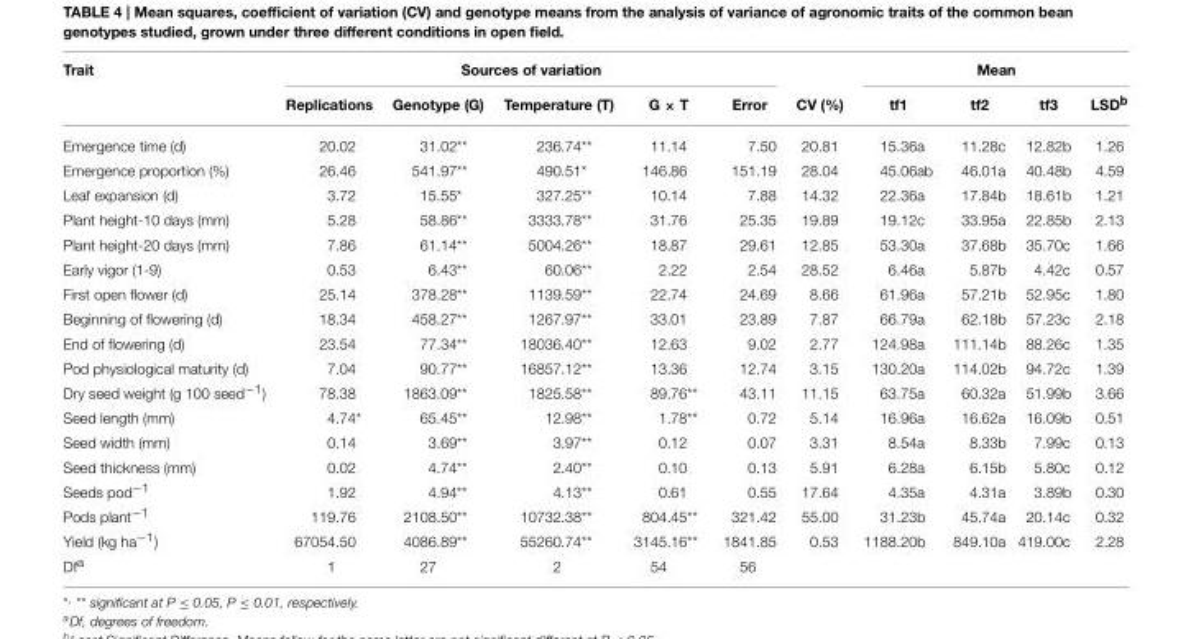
<table><thead><tr><td rowspan="2">Trait</td><td colspan="5">Sources of variation</td><td rowspan="2">CV (%)</td><td colspan="4">Mean</td></tr><tr><td>Replications</td><td>Genotype (G)</td><td>Temperature (T)</td><td>G × T</td><td>Error</td><td>tf1</td><td>tf2</td><td>tf3</td><td>LSD<sup>b</sup></td></tr></thead><tbody><tr><td>Emergence time (d)</td><td>20.02</td><td>31.02**</td><td>236.74**</td><td>11.14</td><td>7.50</td><td>20.81</td><td>15.36a</td><td>11.28c</td><td>12.82b</td><td>1.26</td></tr><tr><td>Emergence proportion (%)</td><td>26.46</td><td>541.97**</td><td>490.51*</td><td>146.86</td><td>151.19</td><td>28.04</td><td>45.06ab</td><td>46.01a</td><td>40.48b</td><td>4.59</td></tr><tr><td>Leaf expansion (d)</td><td>3.72</td><td>15.55*</td><td>327.25**</td><td>10.14</td><td>7.88</td><td>14.32</td><td>22.36a</td><td>17.84b</td><td>18.61b</td><td>1.21</td></tr><tr><td>Plant height-10 days (mm)</td><td>5.28</td><td>58.86**</td><td>3333.78**</td><td>31.76</td><td>25.35</td><td>19.89</td><td>19.12c</td><td>33.95a</td><td>22.85b</td><td>2.13</td></tr><tr><td>Plant height-20 days (mm)</td><td>7.86</td><td>61.14**</td><td>5004.26**</td><td>18.87</td><td>29.61</td><td>12.85</td><td>53.30a</td><td>37.68b</td><td>35.70c</td><td>1.66</td></tr><tr><td>Early vigor (1-9)</td><td>0.53</td><td>6.43**</td><td>60.06**</td><td>2.22</td><td>2.54</td><td>28.52</td><td>6.46a</td><td>5.87b</td><td>4.42c</td><td>0.57</td></tr><tr><td>First open flower (d)</td><td>25.14</td><td>378.28**</td><td>1139.59**</td><td>22.74</td><td>24.69</td><td>8.66</td><td>61.96a</td><td>57.21b</td><td>52.95c</td><td>1.80</td></tr><tr><td>Beginning of flowering (d)</td><td>18.34</td><td>458.27**</td><td>1267.97**</td><td>33.01</td><td>23.89</td><td>7.87</td><td>66.79a</td><td>62.18b</td><td>57.23c</td><td>2.18</td></tr><tr><td>End of flowering (d)</td><td>23.54</td><td>77.34**</td><td>18036.40**</td><td>12.63</td><td>9.02</td><td>2.77</td><td>124.98a</td><td>111.14b</td><td>88.26c</td><td>1.35</td></tr><tr><td>Pod physiological maturity (d)</td><td>7.04</td><td>90.77**</td><td>16857.12**</td><td>13.36</td><td>12.74</td><td>3.15</td><td>130.20a</td><td>114.02b</td><td>94.72c</td><td>1.39</td></tr><tr><td>Dry seed weight (g 100 seed<sup>−1</sup>)</td><td>78.38</td><td>1863.09**</td><td>1825.58**</td><td>89.76**</td><td>43.11</td><td>11.15</td><td>63.75a</td><td>60.32a</td><td>51.99b</td><td>3.66</td></tr><tr><td>Seed length (mm)</td><td>4.74*</td><td>65.45**</td><td>12.98**</td><td>1.78**</td><td>0.72</td><td>5.14</td><td>16.96a</td><td>16.62a</td><td>16.09b</td><td>0.51</td></tr><tr><td>Seed width (mm)</td><td>0.14</td><td>3.69**</td><td>3.97**</td><td>0.12</td><td>0.07</td><td>3.31</td><td>8.54a</td><td>8.33b</td><td>7.99c</td><td>0.13</td></tr><tr><td>Seed thickness (mm)</td><td>0.02</td><td>4.74**</td><td>2.40**</td><td>0.10</td><td>0.13</td><td>5.91</td><td>6.28a</td><td>6.15b</td><td>5.80c</td><td>0.12</td></tr><tr><td>Seeds pod<sup>−1</sup></td><td>1.92</td><td>4.94**</td><td>4.13**</td><td>0.61</td><td>0.55</td><td>17.64</td><td>4.35a</td><td>4.31a</td><td>3.89b</td><td>0.30</td></tr><tr><td>Pods plant<sup>−1</sup></td><td>119.76</td><td>2108.50**</td><td>10732.38**</td><td>804.45**</td><td>321.42</td><td>55.00</td><td>31.23b</td><td>45.74a</td><td>20.14c</td><td>0.32</td></tr><tr><td>Yield (kg ha<sup>−1</sup>)</td><td>67054.50</td><td>4086.89**</td><td>55260.74**</td><td>3145.16**</td><td>1841.85</td><td>0.53</td><td>1188.20b</td><td>849.10a</td><td>419.00c</td><td>2.28</td></tr><tr><td>Df<sup>a</sup></td><td>1</td><td>27</td><td>2</td><td>54</td><td>56</td><td></td><td></td><td></td><td></td><td></td></tr></tbody></table>